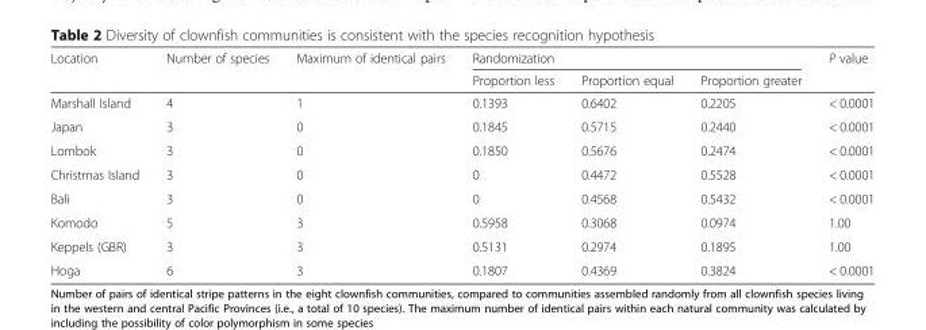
<table><thead><tr><td rowspan="2">Location</td><td rowspan="2">Number of species</td><td rowspan="2">Maximum of identical pairs</td><td colspan="3">Randomization</td><td rowspan="2">P value</td></tr><tr><td>Proportion less</td><td>Proportion equal</td><td>Proportion greater</td></tr></thead><tbody><tr><td>Marshall Island</td><td>4</td><td>1</td><td>0.1393</td><td>0.6402</td><td>0.2205</td><td>&lt; 0.0001</td></tr><tr><td>Japan</td><td>3</td><td>0</td><td>0.1845</td><td>0.5715</td><td>0.2440</td><td>&lt; 0.0001</td></tr><tr><td>Lombok</td><td>3</td><td>0</td><td>0.1850</td><td>0.5676</td><td>0.2474</td><td>&lt; 0.0001</td></tr><tr><td>Christmas Island</td><td>3</td><td>0</td><td>0</td><td>0.4472</td><td>0.5528</td><td>&lt; 0.0001</td></tr><tr><td>Bali</td><td>3</td><td>0</td><td>0</td><td>0.4568</td><td>0.5432</td><td>&lt; 0.0001</td></tr><tr><td>Komodo</td><td>5</td><td>3</td><td>0.5958</td><td>0.3068</td><td>0.0974</td><td>1.00</td></tr><tr><td>Keppels (GBR)</td><td>3</td><td>3</td><td>0.5131</td><td>0.2974</td><td>0.1895</td><td>1.00</td></tr><tr><td>Hoga</td><td>6</td><td>3</td><td>0.1807</td><td>0.4369</td><td>0.3824</td><td>&lt; 0.0001</td></tr></tbody></table>